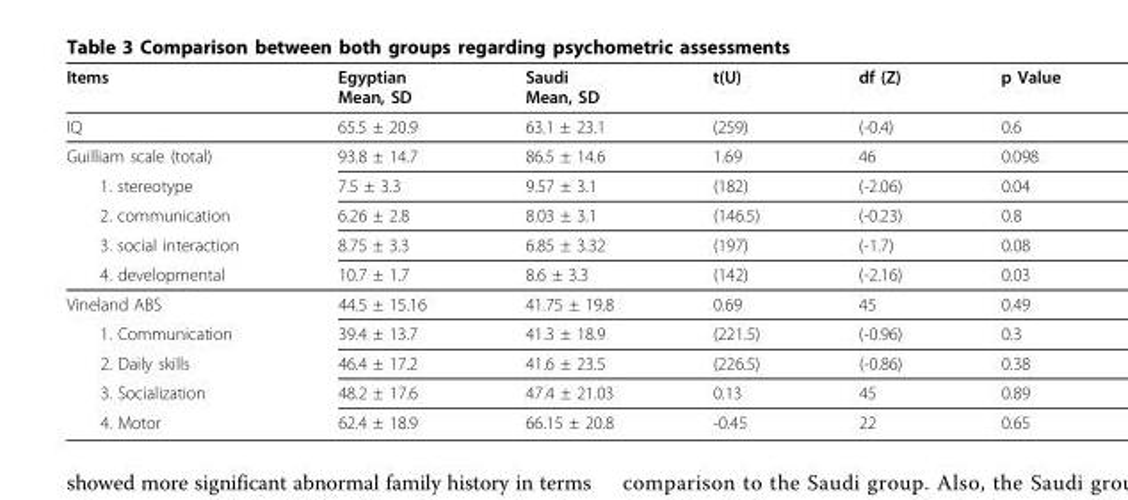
<table><thead><tr><td>Items</td><td>Egyptian Mean, SD</td><td>Saudi Mean, SD</td><td>t(U)</td><td>df (Z)</td><td>p Value</td></tr></thead><tbody><tr><td>IQ</td><td>65.5 ± 20.9</td><td>63.1 ± 23.1</td><td>(259)</td><td>(-0.4)</td><td>0.6</td></tr><tr><td>Guilliam scale (total)</td><td>93.8 ± 14.7</td><td>86.5 ± 14.6</td><td>1.69</td><td>46</td><td>0.098</td></tr><tr><td>1. stereotype</td><td>7.5 ± 3.3</td><td>9.57 ± 3.1</td><td>(182)</td><td>(-2.06)</td><td>0.04</td></tr><tr><td>2. communication</td><td>6.26 ± 2.8</td><td>8.03 ± 3.1</td><td>(146.5)</td><td>(-0.23)</td><td>0.8</td></tr><tr><td>3. social interaction</td><td>8.75 ± 3.3</td><td>6.85 ± 3.32</td><td>(197)</td><td>(-1.7)</td><td>0.08</td></tr><tr><td>4. developmental</td><td>10.7 ± 1.7</td><td>8.6 ± 3.3</td><td>(142)</td><td>(-2.16)</td><td>0.03</td></tr><tr><td>Vineland ABS</td><td>44.5 ± 15.16</td><td>41.75 ± 19.8</td><td>0.69</td><td>45</td><td>0.49</td></tr><tr><td>1. Communication</td><td>39.4 ± 13.7</td><td>41.3 ± 18.9</td><td>(221.5)</td><td>(-0.96)</td><td>0.3</td></tr><tr><td>2. Daily skills</td><td>46.4 ± 17.2</td><td>41.6 ± 23.5</td><td>(226.5)</td><td>(-0.86)</td><td>0.38</td></tr><tr><td>3. Socialization</td><td>48.2 ± 17.6</td><td>47.4 ± 21.03</td><td>0.13</td><td>45</td><td>0.89</td></tr><tr><td>4. Motor</td><td>62.4 ± 18.9</td><td>66.15 ± 20.8</td><td>-0.45</td><td>22</td><td>0.65</td></tr></tbody></table>